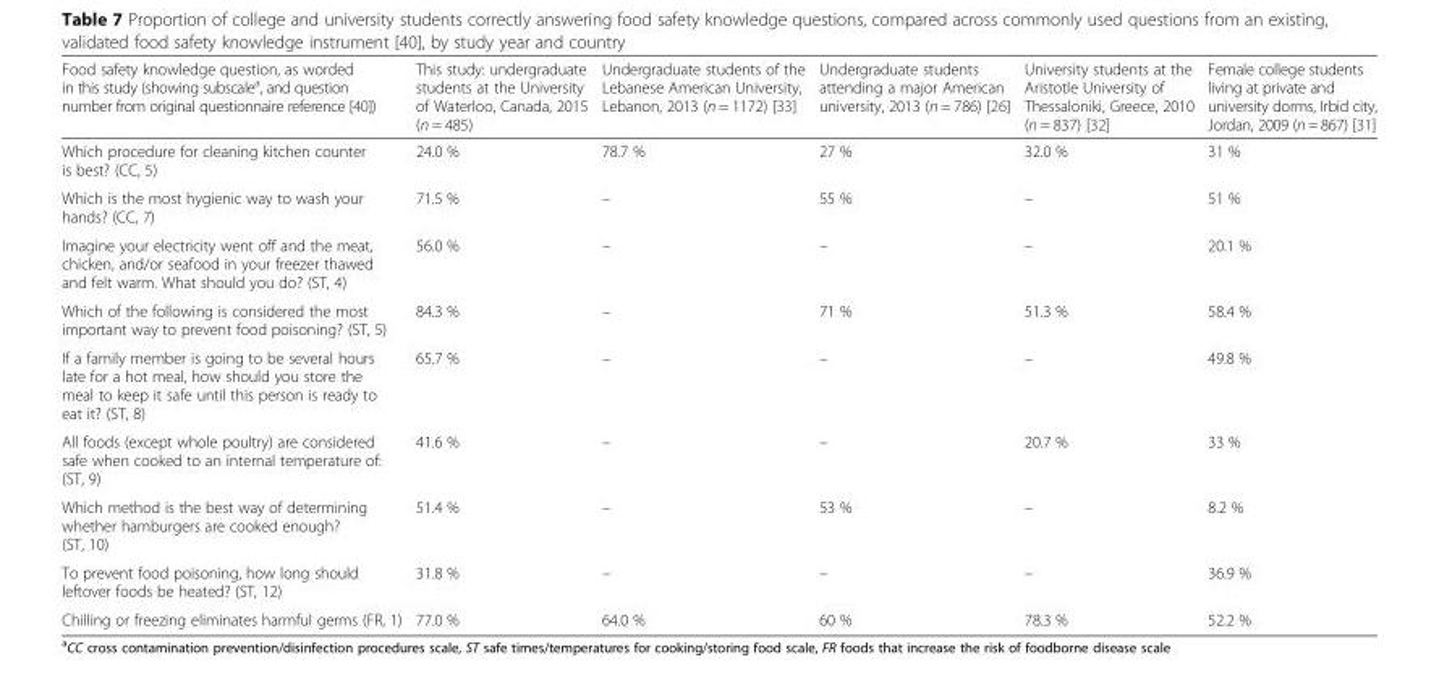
<table><thead><tr><td>Food safety knowledge question, as worded in this study (showing subscale<sup>a</sup>, and question number from original questionnaire reference [40])</td><td>This study: undergraduate students at the University of Waterloo, Canada, 2015 (n = 485)</td><td>Undergraduate students of the Lebanese American University, Lebanon, 2013 (n = 1172) [33]</td><td>Undergraduate students attending a major American university, 2013 (n = 786) [26]</td><td>University students at the Aristotle University of Thessaloniki, Greece, 2010 (n = 837) [32]</td><td>Female college students living at private and university dorms, Irbid city, Jordan, 2009 (n = 867) [31]</td></tr></thead><tbody><tr><td>Which procedure for cleaning kitchen counter is best? (CC, 5)</td><td>24.0 %</td><td>78.7 %</td><td>27 %</td><td>32.0 %</td><td>31 %</td></tr><tr><td>Which is the most hygienic way to wash your hands? (CC, 7)</td><td>71.5 %</td><td>–</td><td>55 %</td><td>–</td><td>51 %</td></tr><tr><td>Imagine your electricity went off and the meat, chicken, and/or seafood in your freezer thawed and felt warm. What should you do? (ST, 4)</td><td>56.0 %</td><td>–</td><td>–</td><td>–</td><td>20.1 %</td></tr><tr><td>Which of the following is considered the most important way to prevent food poisoning? (ST, 5)</td><td>84.3 %</td><td>–</td><td>71 %</td><td>51.3 %</td><td>58.4 %</td></tr><tr><td>If a family member is going to be several hours late for a hot meal, how should you store the meal to keep it safe until this person is ready to eat it? (ST, 8)</td><td>65.7 %</td><td>–</td><td>–</td><td>–</td><td>49.8 %</td></tr><tr><td>All foods (except whole poultry) are considered safe when cooked to an internal temperature of: (ST, 9)</td><td>41.6 %</td><td>–</td><td>–</td><td>20.7 %</td><td>33 %</td></tr><tr><td>Which method is the best way of determining whether hamburgers are cooked enough? (ST, 10)</td><td>51.4 %</td><td>–</td><td>53 %</td><td>–</td><td>8.2 %</td></tr><tr><td>To prevent food poisoning, how long should leftover foods be heated? (ST, 12)</td><td>31.8 %</td><td>–</td><td>–</td><td>–</td><td>36.9 %</td></tr><tr><td>Chilling or freezing eliminates harmful germs (FR, 1)</td><td>77.0 %</td><td>64.0 %</td><td>60 %</td><td>78.3 %</td><td>52.2 %</td></tr></tbody></table>